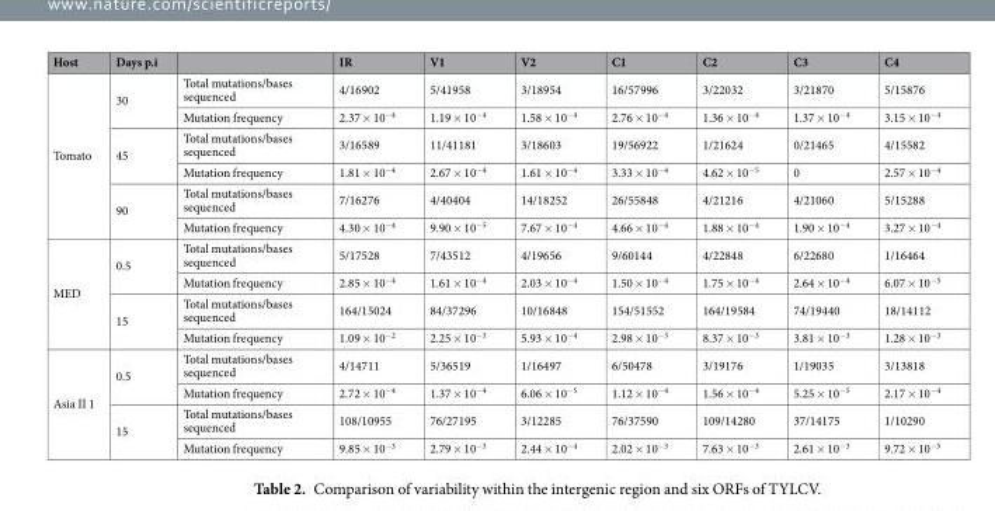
<table><thead><tr><td>Host</td><td>Days p.i</td><td></td><td>IR</td><td>V1</td><td>V2</td><td>C1</td><td>C2</td><td>C3</td><td>C4</td></tr></thead><tbody><tr><td rowspan="6">Tomato</td><td rowspan="2">30</td><td>Total mutations/bases sequenced</td><td>4/16902</td><td>5/41958</td><td>3/18954</td><td>16/57996</td><td>3/22032</td><td>3/21870</td><td>5/15876</td></tr><tr><td>Mutation frequency</td><td>2.37 × 10<sup>−4</sup></td><td>1.19 × 10<sup>−4</sup></td><td>1.58 × 10<sup>−4</sup></td><td>2.76 × 10<sup>−4</sup></td><td>1.36 × 10<sup>−4</sup></td><td>1.37 × 10<sup>−4</sup></td><td>3.15 × 10<sup>−4</sup></td></tr><tr><td rowspan="2">45</td><td>Total mutations/bases sequenced</td><td>3/16589</td><td>11/41181</td><td>3/18603</td><td>19/56922</td><td>1/21624</td><td>0/21465</td><td>4/15582</td></tr><tr><td>Mutation frequency</td><td>1.81 × 10<sup>−4</sup></td><td>2.67 × 10<sup>−4</sup></td><td>1.61 × 10<sup>−4</sup></td><td>3.33 × 10<sup>−4</sup></td><td>4.62 × 10<sup>−5</sup></td><td>0</td><td>2.57 × 10<sup>−4</sup></td></tr><tr><td rowspan="2">90</td><td>Total mutations/bases sequenced</td><td>7/16276</td><td>4/40404</td><td>14/18252</td><td>26/55848</td><td>4/21216</td><td>4/21060</td><td>5/15288</td></tr><tr><td>Mutation frequency</td><td>4.30 × 10<sup>−4</sup></td><td>9.90 × 10<sup>−5</sup></td><td>7.67 × 10<sup>−4</sup></td><td>4.66 × 10<sup>−4</sup></td><td>1.88 × 10<sup>−4</sup></td><td>1.90 × 10<sup>−4</sup></td><td>3.27 × 10<sup>−4</sup></td></tr><tr><td rowspan="4">MED</td><td rowspan="2">0.5</td><td>Total mutations/bases sequenced</td><td>5/17528</td><td>7/43512</td><td>4/19656</td><td>9/60144</td><td>4/22848</td><td>6/22680</td><td>1/16464</td></tr><tr><td>Mutation frequency</td><td>2.85 × 10<sup>−4</sup></td><td>1.61 × 10<sup>−4</sup></td><td>2.03 × 10<sup>−4</sup></td><td>1.50 × 10<sup>−4</sup></td><td>1.75 × 10<sup>−4</sup></td><td>2.64 × 10<sup>−4</sup></td><td>6.07 × 10<sup>−5</sup></td></tr><tr><td rowspan="2">15</td><td>Total mutations/bases sequenced</td><td>164/15024</td><td>84/37296</td><td>10/16848</td><td>154/51552</td><td>164/19584</td><td>74/19440</td><td>18/14112</td></tr><tr><td>Mutation frequency</td><td>1.09 × 10<sup>−2</sup></td><td>2.25 × 10<sup>−3</sup></td><td>5.93 × 10<sup>−4</sup></td><td>2.98 × 10<sup>−3</sup></td><td>8.37 × 10<sup>−3</sup></td><td>3.81 × 10<sup>−3</sup></td><td>1.28 × 10<sup>−3</sup></td></tr><tr><td rowspan="4">Asia II 1</td><td rowspan="2">0.5</td><td>Total mutations/bases sequenced</td><td>4/14711</td><td>5/36519</td><td>1/16497</td><td>6/50478</td><td>3/19176</td><td>1/19035</td><td>3/13818</td></tr><tr><td>Mutation frequency</td><td>2.72 × 10<sup>−4</sup></td><td>1.37 × 10<sup>−4</sup></td><td>6.06 × 10<sup>−5</sup></td><td>1.12 × 10<sup>−4</sup></td><td>1.56 × 10<sup>−4</sup></td><td>5.25 × 10<sup>−5</sup></td><td>2.17 × 10<sup>−4</sup></td></tr><tr><td rowspan="2">15</td><td>Total mutations/bases sequenced</td><td>108/10955</td><td>76/27195</td><td>3/12285</td><td>76/37590</td><td>109/14280</td><td>37/14175</td><td>1/10290</td></tr><tr><td>Mutation frequency</td><td>9.85 × 10<sup>−3</sup></td><td>2.79 × 10<sup>−3</sup></td><td>2.44 × 10<sup>−4</sup></td><td>2.02 × 10<sup>−3</sup></td><td>7.63 × 10<sup>−3</sup></td><td>2.61 × 10<sup>−3</sup></td><td>9.72 × 10<sup>−5</sup></td></tr></tbody></table>